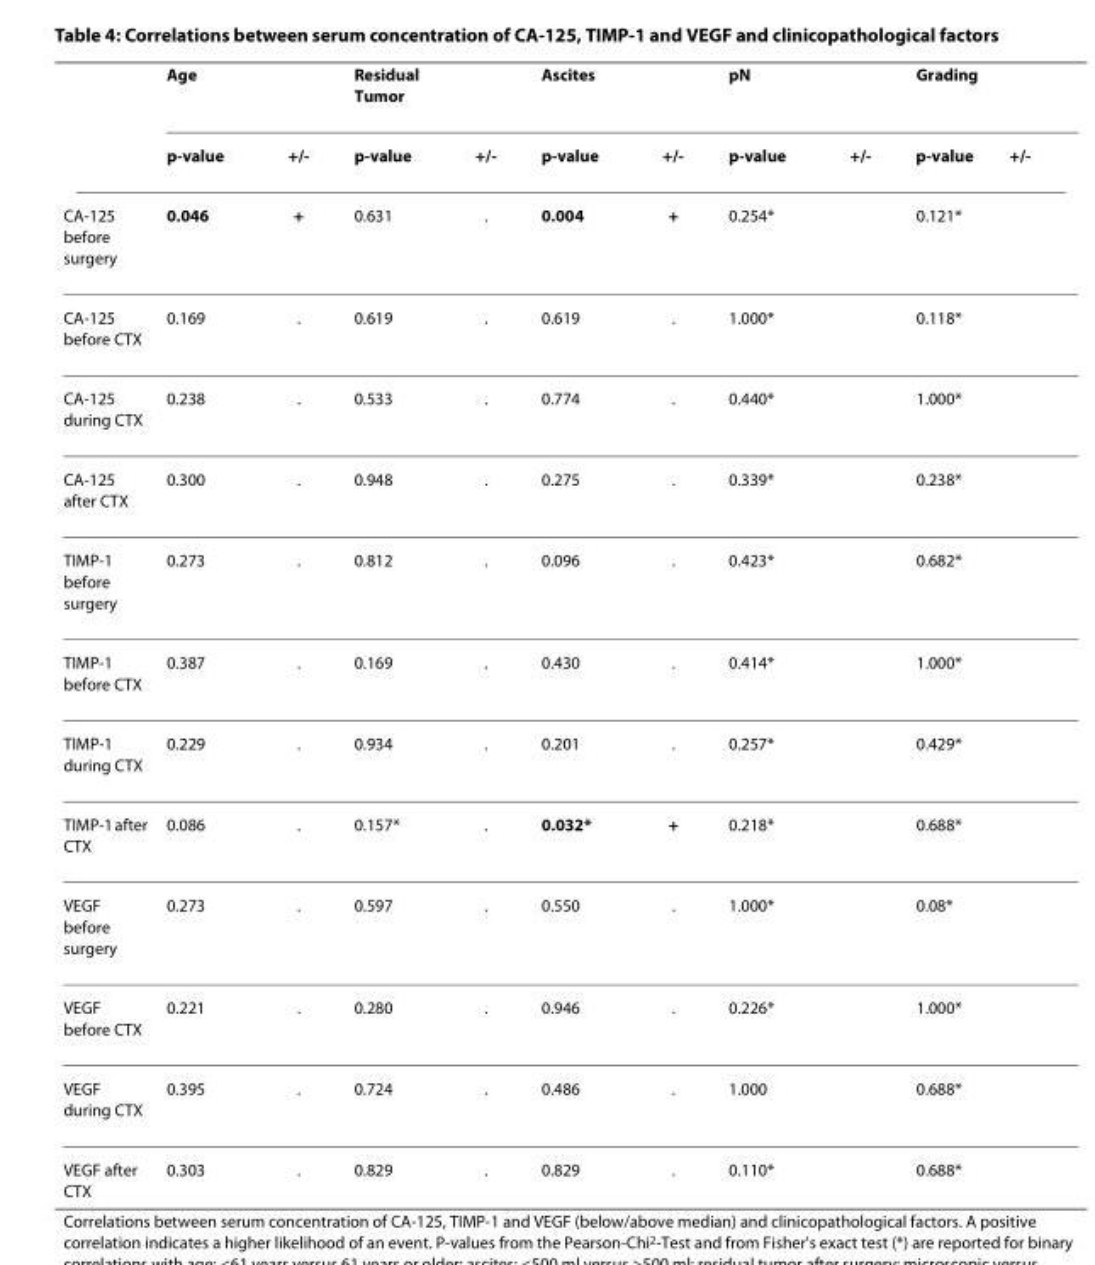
<table><thead><tr><td rowspan="2"></td><td rowspan="2">Age p-value</td><td rowspan="2">+/-</td><td rowspan="2">Residual Tumor p-value</td><td rowspan="2">+/-</td><td rowspan="2">Ascites p-value</td><td rowspan="2">+/-</td><td rowspan="2">pN p-value</td><td rowspan="2">+/-</td><td rowspan="2">Grading p-value</td><td rowspan="2">+/-</td></tr><tr></tr></thead><tbody><tr><td>CA-125 before surgery</td><td>0.046</td><td>+</td><td>0.631</td><td>.</td><td>0.004</td><td>+</td><td>0.254*</td><td></td><td>0.121*</td><td></td></tr><tr><td>CA-125 before CTX</td><td>0.169</td><td>.</td><td>0.619</td><td>.</td><td>0.619</td><td>.</td><td>1.000*</td><td></td><td>0.118*</td><td></td></tr><tr><td>CA-125 during CTX</td><td>0.238</td><td>.</td><td>0.533</td><td>.</td><td>0.774</td><td>.</td><td>0.440*</td><td></td><td>1.000*</td><td></td></tr><tr><td>CA-125 after CTX</td><td>0.300</td><td>.</td><td>0.948</td><td>.</td><td>0.275</td><td>.</td><td>0.339*</td><td></td><td>0.238*</td><td></td></tr><tr><td>TIMP-1 before surgery</td><td>0.273</td><td>.</td><td>0.812</td><td>.</td><td>0.096</td><td>.</td><td>0.423*</td><td></td><td>0.682*</td><td></td></tr><tr><td>TIMP-1 before CTX</td><td>0.387</td><td>.</td><td>0.169</td><td>.</td><td>0.430</td><td>.</td><td>0.414*</td><td></td><td>1.000*</td><td></td></tr><tr><td>TIMP-1 during CTX</td><td>0.229</td><td>.</td><td>0.934</td><td>.</td><td>0.201</td><td>.</td><td>0.257*</td><td></td><td>0.429*</td><td></td></tr><tr><td>TIMP-1 after CTX</td><td>0.086</td><td>.</td><td>0.157*</td><td>.</td><td>0.032*</td><td>+</td><td>0.218*</td><td></td><td>0.688*</td><td></td></tr><tr><td>VEGF before surgery</td><td>0.273</td><td>.</td><td>0.597</td><td>.</td><td>0.550</td><td>.</td><td>1.000*</td><td></td><td>0.08*</td><td></td></tr><tr><td>VEGF before CTX</td><td>0.221</td><td>.</td><td>0.280</td><td>.</td><td>0.946</td><td>.</td><td>0.226*</td><td></td><td>1.000*</td><td></td></tr><tr><td>VEGF during CTX</td><td>0.395</td><td>.</td><td>0.724</td><td>.</td><td>0.486</td><td>.</td><td>1.000</td><td></td><td>0.688*</td><td></td></tr><tr><td>VEGF after CTX</td><td>0.303</td><td>.</td><td>0.829</td><td>.</td><td>0.829</td><td>.</td><td>0.110*</td><td></td><td>0.688*</td><td></td></tr></tbody></table>